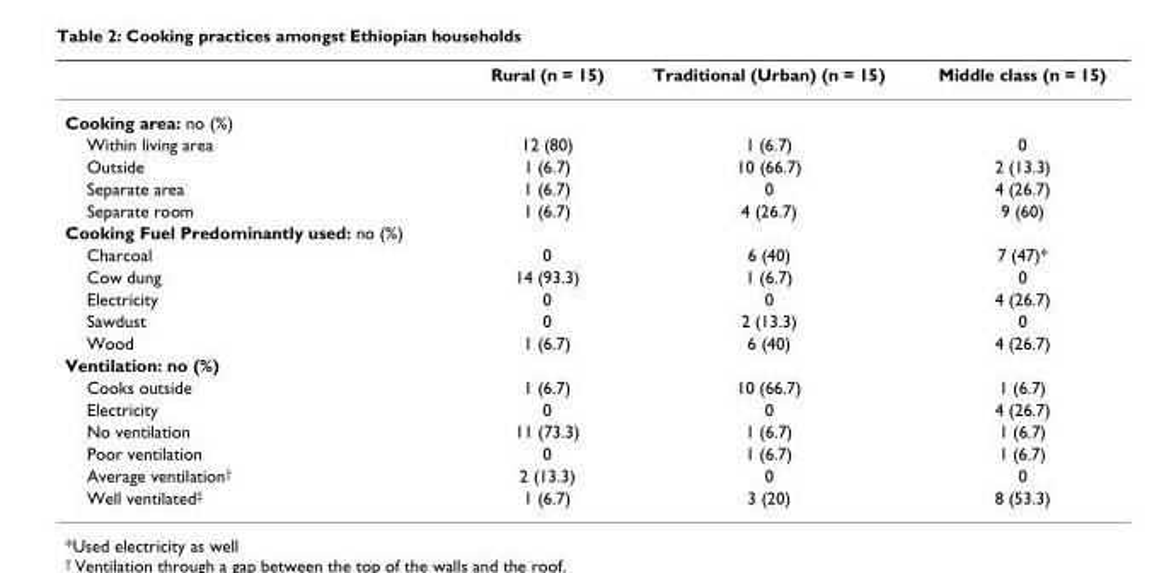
<table><thead><tr><td></td><td>Rural (n = 15)</td><td>Traditional (Urban) (n = 15)</td><td>Middle class (n = 15)</td></tr></thead><tbody><tr><td colspan="4">Cooking area: no (%)</td></tr><tr><td>Within living area</td><td>12 (80)</td><td>1 (6.7)</td><td>0</td></tr><tr><td>Outside</td><td>1 (6.7)</td><td>10 (66.7)</td><td>2 (13.3)</td></tr><tr><td>Separate area</td><td>1 (6.7)</td><td>0</td><td>4 (26.7)</td></tr><tr><td>Separate room</td><td>1 (6.7)</td><td>4 (26.7)</td><td>9 (60)</td></tr><tr><td colspan="4">Cooking Fuel Predominantly used: no (%)</td></tr><tr><td>Charcoal</td><td>0</td><td>6 (40)</td><td>7 (47)*</td></tr><tr><td>Cow dung</td><td>14 (93.3)</td><td>1 (6.7)</td><td>0</td></tr><tr><td>Electricity</td><td>0</td><td>0</td><td>4 (26.7)</td></tr><tr><td>Sawdust</td><td>0</td><td>2 (13.3)</td><td>0</td></tr><tr><td>Wood</td><td>1 (6.7)</td><td>6 (40)</td><td>4 (26.7)</td></tr><tr><td colspan="4">Ventilation: no (%)</td></tr><tr><td>Cooks outside</td><td>1 (6.7)</td><td>10 (66.7)</td><td>1 (6.7)</td></tr><tr><td>Electricity</td><td>0</td><td>0</td><td>4 (26.7)</td></tr><tr><td>No ventilation</td><td>11 (73.3)</td><td>1 (6.7)</td><td>1 (6.7)</td></tr><tr><td>Poor ventilation</td><td>0</td><td>1 (6.7)</td><td>1 (6.7)</td></tr><tr><td>Average ventilation<sup>†</sup></td><td>2 (13.3)</td><td>0</td><td>0</td></tr><tr><td>Well ventilated<sup>‡</sup></td><td>1 (6.7)</td><td>3 (20)</td><td>8 (53.3)</td></tr></tbody></table>